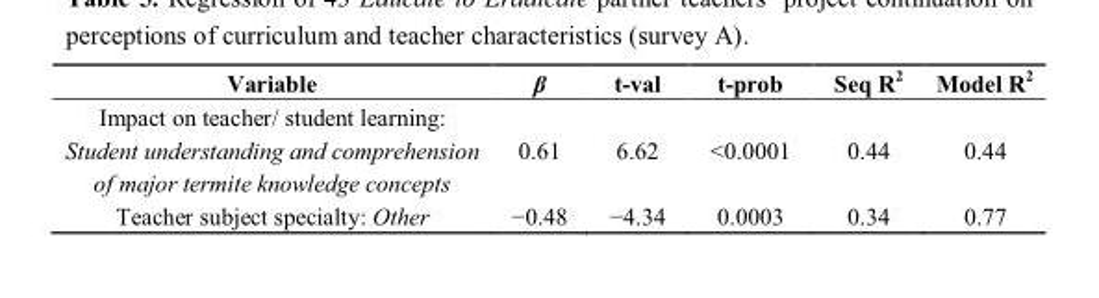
<table><thead><tr><td>Variable</td><td>β</td><td>t-val</td><td>t-prob</td><td>Seq R<sup>2</sup></td><td>Model R<sup>2</sup></td></tr></thead><tbody><tr><td>Impact on teacher/ student learning: Student understanding and comprehension of major termite knowledge concepts</td><td>0.61</td><td>6.62</td><td>&lt;0.0001</td><td>0.44</td><td>0.44</td></tr><tr><td>Teacher subject specialty: Other</td><td>−0.48</td><td>−4.34</td><td>0.0003</td><td>0.34</td><td>0.77</td></tr></tbody></table>